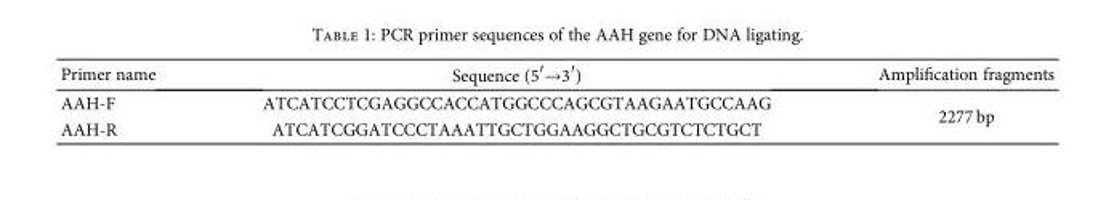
<table><thead><tr><td>Primer name</td><td>Sequence (5′→3′)</td><td>Amplification fragments</td></tr></thead><tbody><tr><td>AAH-F</td><td>ATCATCCTCGAGGCCACCATGGCCCAGCGTAAGAATGCCAAG</td><td rowspan="2">2277 bp</td></tr><tr><td>AAH-R</td><td>ATCATCGGATCCCTAAATTGCTGGAAGGCTGCGTCTCTGCT</td></tr></tbody></table>